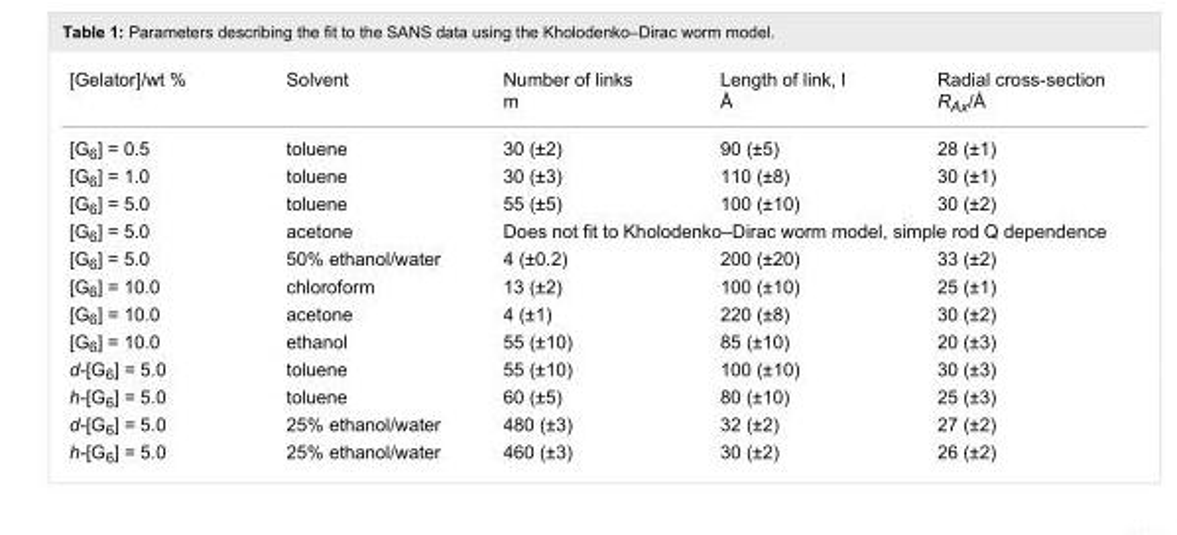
<table><tbody><tr><td>[Gelator]/wt %</td><td>Solvent</td><td>Number of links m</td><td>Length of link, l Å</td><td>Radial cross-section R<sub>Ax</sub>/Å</td></tr><tr><td>[G<sub>6</sub>] = 0.5</td><td>toluene</td><td>30 (±2)</td><td>90 (±5)</td><td>28 (±1)</td></tr><tr><td>[G<sub>6</sub>] = 1.0</td><td>toluene</td><td>30 (±3)</td><td>110 (±8)</td><td>30 (±1)</td></tr><tr><td>[G<sub>6</sub>] = 5.0</td><td>toluene</td><td>55 (±5)</td><td>100 (±10)</td><td>30 (±2)</td></tr><tr><td>[G<sub>6</sub>] = 5.0</td><td>acetone</td><td colspan="3">Does not fit to Kholodenko–Dirac worm model, simple rod Q dependence</td></tr><tr><td>[G<sub>6</sub>] = 5.0</td><td>50% ethanol/water</td><td>4 (±0.2)</td><td>200 (±20)</td><td>33 (±2)</td></tr><tr><td>[G<sub>6</sub>] = 10.0</td><td>chloroform</td><td>13 (±2)</td><td>100 (±10)</td><td>25 (±1)</td></tr><tr><td>[G<sub>6</sub>] = 10.0</td><td>acetone</td><td>4 (±1)</td><td>220 (±8)</td><td>30 (±2)</td></tr><tr><td>[G<sub>6</sub>] = 10.0</td><td>ethanol</td><td>55 (±10)</td><td>85 (±10)</td><td>20 (±3)</td></tr><tr><td>d-[G<sub>6</sub>] = 5.0</td><td>toluene</td><td>55 (±10)</td><td>100 (±10)</td><td>30 (±3)</td></tr><tr><td>h-[G<sub>6</sub>] = 5.0</td><td>toluene</td><td>60 (±5)</td><td>80 (±10)</td><td>25 (±3)</td></tr><tr><td>d-[G<sub>6</sub>] = 5.0</td><td>25% ethanol/water</td><td>480 (±3)</td><td>32 (±2)</td><td>27 (±2)</td></tr><tr><td>h-[G<sub>6</sub>] = 5.0</td><td>25% ethanol/water</td><td>460 (±3)</td><td>30 (±2)</td><td>26 (±2)</td></tr></tbody></table>